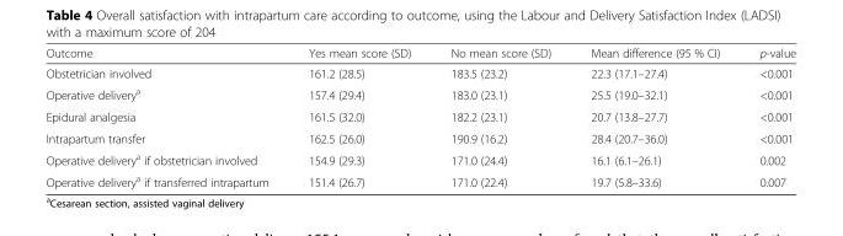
<table><thead><tr><td>Outcome</td><td>Yes mean score (SD)</td><td>No mean score (SD)</td><td>Mean difference (95 % CI)</td><td>p-value</td></tr></thead><tbody><tr><td>Obstetrician involved</td><td>161.2 (28.5)</td><td>183.5 (23.2)</td><td>22.3 (17.1–27.4)</td><td>&lt;0.001</td></tr><tr><td>Operative delivery<sup>a</sup></td><td>157.4 (29.4)</td><td>183.0 (23.1)</td><td>25.5 (19.0–32.1)</td><td>&lt;0.001</td></tr><tr><td>Epidural analgesia</td><td>161.5 (32.0)</td><td>182.2 (23.1)</td><td>20.7 (13.8–27.7)</td><td>&lt;0.001</td></tr><tr><td>Intrapartum transfer</td><td>162.5 (26.0)</td><td>190.9 (16.2)</td><td>28.4 (20.7–36.0)</td><td>&lt;0.001</td></tr><tr><td>Operative delivery<sup>a</sup> if obstetrician involved</td><td>154.9 (29.3)</td><td>171.0 (24.4)</td><td>16.1 (6.1–26.1)</td><td>0.002</td></tr><tr><td>Operative delivery<sup>a</sup> if transferred intrapartum</td><td>151.4 (26.7)</td><td>171.0 (22.4)</td><td>19.7 (5.8–33.6)</td><td>0.007</td></tr></tbody></table>